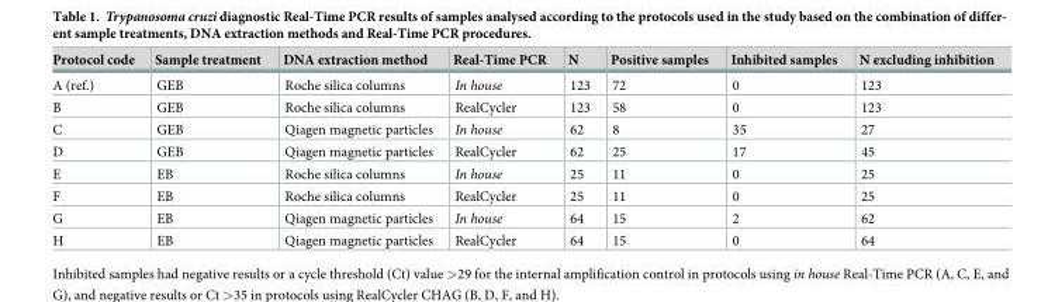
<table><thead><tr><td>Protocol code</td><td>Sample treatment</td><td>DNA extraction method</td><td>Real-Time PCR</td><td>N</td><td>Positive samples</td><td>Inhibited samples</td><td>N excluding inhibition</td></tr></thead><tbody><tr><td>A (ref.)</td><td>GEB</td><td>Roche silica columns</td><td>In house</td><td>123</td><td>72</td><td>0</td><td>123</td></tr><tr><td>B</td><td>GEB</td><td>Roche silica columns</td><td>RealCycler</td><td>123</td><td>58</td><td>0</td><td>123</td></tr><tr><td>C</td><td>GEB</td><td>Qiagen magnetic particles</td><td>In house</td><td>62</td><td>8</td><td>35</td><td>27</td></tr><tr><td>D</td><td>GEB</td><td>Qiagen magnetic particles</td><td>RealCycler</td><td>62</td><td>25</td><td>17</td><td>45</td></tr><tr><td>E</td><td>EB</td><td>Roche silica columns</td><td>In house</td><td>25</td><td>11</td><td>0</td><td>25</td></tr><tr><td>F</td><td>EB</td><td>Roche silica columns</td><td>RealCycler</td><td>25</td><td>11</td><td>0</td><td>25</td></tr><tr><td>G</td><td>EB</td><td>Qiagen magnetic particles</td><td>In house</td><td>64</td><td>15</td><td>2</td><td>62</td></tr><tr><td>H</td><td>EB</td><td>Qiagen magnetic particles</td><td>RealCycler</td><td>64</td><td>15</td><td>0</td><td>64</td></tr></tbody></table>